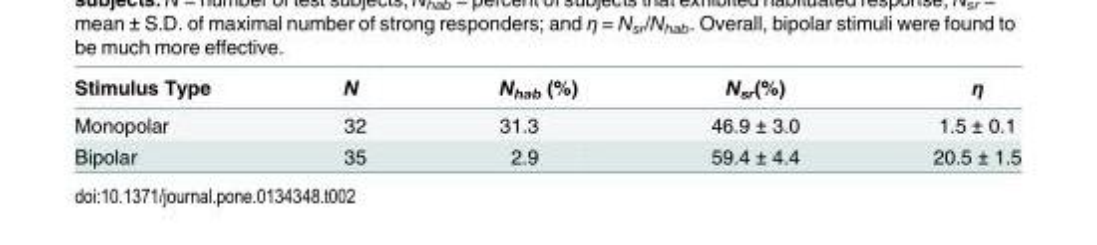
<table><thead><tr><td>Stimulus Type</td><td>N</td><td>N<sub>hab</sub> (%)</td><td>N<sub>sr</sub>(%)</td><td>η</td></tr></thead><tbody><tr><td>Monopolar</td><td>32</td><td>31.3</td><td>46.9 ± 3.0</td><td>1.5 ± 0.1</td></tr><tr><td>Bipolar</td><td>35</td><td>2.9</td><td>59.4 ± 4.4</td><td>20.5 ± 1.5</td></tr></tbody></table>